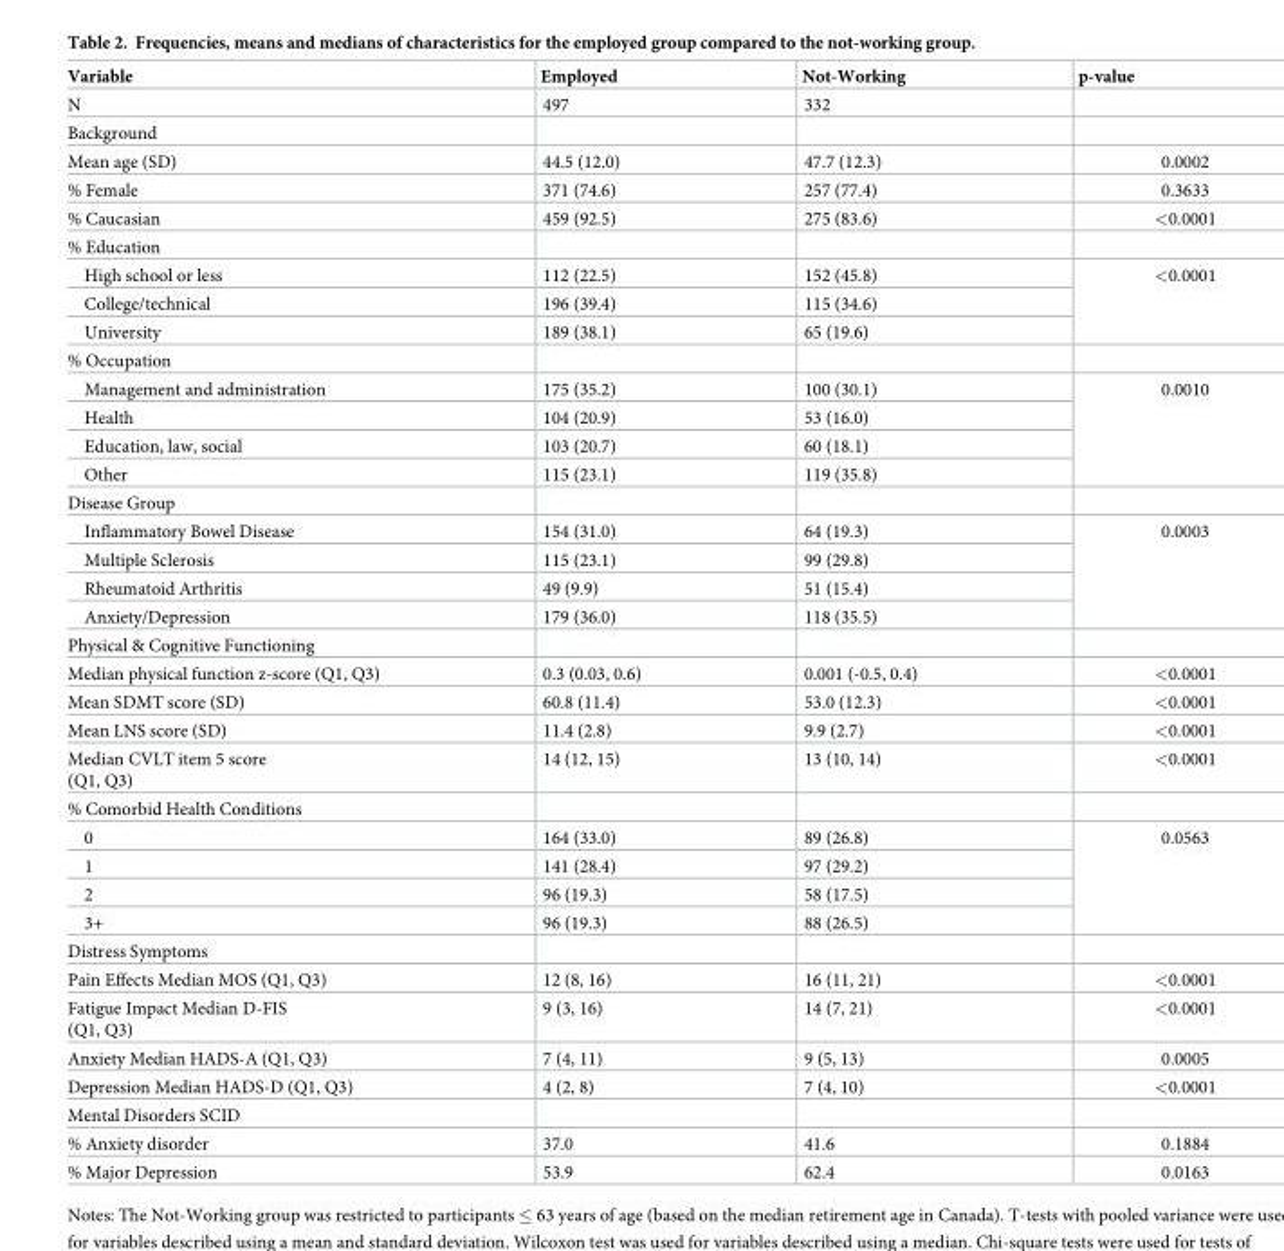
<table><thead><tr><td>Variable</td><td>Employed</td><td>Not-Working</td><td>p-value</td></tr></thead><tbody><tr><td>N</td><td>497</td><td>332</td><td></td></tr><tr><td colspan="4">Background</td></tr><tr><td>Mean age (SD)</td><td>44.5 (12.0)</td><td>47.7 (12.3)</td><td>0.0002</td></tr><tr><td>% Female</td><td>371 (74.6)</td><td>257 (77.4)</td><td>0.3633</td></tr><tr><td>% Caucasian</td><td>459 (92.5)</td><td>275 (83.6)</td><td>&lt;0.0001</td></tr><tr><td colspan="4">% Education</td></tr><tr><td>High school or less</td><td>112 (22.5)</td><td>152 (45.8)</td><td rowspan="3">&lt;0.0001</td></tr><tr><td>College/technical</td><td>196 (39.4)</td><td>115 (34.6)</td></tr><tr><td>University</td><td>189 (38.1)</td><td>65 (19.6)</td></tr><tr><td colspan="4">% Occupation</td></tr><tr><td>Management and administration</td><td>175 (35.2)</td><td>100 (30.1)</td><td rowspan="4">0.0010</td></tr><tr><td>Health</td><td>104 (20.9)</td><td>53 (16.0)</td></tr><tr><td>Education, law, social</td><td>103 (20.7)</td><td>60 (18.1)</td></tr><tr><td>Other</td><td>115 (23.1)</td><td>119 (35.8)</td></tr><tr><td colspan="4">Disease Group</td></tr><tr><td>Inflammatory Bowel Disease</td><td>154 (31.0)</td><td>64 (19.3)</td><td rowspan="4">0.0003</td></tr><tr><td>Multiple Sclerosis</td><td>115 (23.1)</td><td>99 (29.8)</td></tr><tr><td>Rheumatoid Arthritis</td><td>49 (9.9)</td><td>51 (15.4)</td></tr><tr><td>Anxiety/Depression</td><td>179 (36.0)</td><td>118 (35.5)</td></tr><tr><td colspan="4">Physical &amp; Cognitive Functioning</td></tr><tr><td>Median physical function z-score (Q1, Q3)</td><td>0.3 (0.03, 0.6)</td><td>0.001 (-0.5, 0.4)</td><td>&lt;0.0001</td></tr><tr><td>Mean SDMT score (SD)</td><td>60.8 (11.4)</td><td>53.0 (12.3)</td><td>&lt;0.0001</td></tr><tr><td>Mean LNS score (SD)</td><td>11.4 (2.8)</td><td>9.9 (2.7)</td><td>&lt;0.0001</td></tr><tr><td>Median CVLT item 5 score (Q1, Q3)</td><td>14 (12, 15)</td><td>13 (10, 14)</td><td>&lt;0.0001</td></tr><tr><td colspan="4">% Comorbid Health Conditions</td></tr><tr><td>0</td><td>164 (33.0)</td><td>89 (26.8)</td><td rowspan="4">0.0563</td></tr><tr><td>1</td><td>141 (28.4)</td><td>97 (29.2)</td></tr><tr><td>2</td><td>96 (19.3)</td><td>58 (17.5)</td></tr><tr><td>3+</td><td>96 (19.3)</td><td>88 (26.5)</td></tr><tr><td colspan="4">Distress Symptoms</td></tr><tr><td>Pain Effects Median MOS (Q1, Q3)</td><td>12 (8, 16)</td><td>16 (11, 21)</td><td>&lt;0.0001</td></tr><tr><td>Fatigue Impact Median D-FIS (Q1, Q3)</td><td>9 (3, 16)</td><td>14 (7, 21)</td><td>&lt;0.0001</td></tr><tr><td>Anxiety Median HADS-A (Q1, Q3)</td><td>7 (4, 11)</td><td>9 (5, 13)</td><td>0.0005</td></tr><tr><td>Depression Median HADS-D (Q1, Q3)</td><td>4 (2, 8)</td><td>7 (4, 10)</td><td>&lt;0.0001</td></tr><tr><td colspan="4">Mental Disorders SCID</td></tr><tr><td>% Anxiety disorder</td><td>37.0</td><td>41.6</td><td>0.1884</td></tr><tr><td>% Major Depression</td><td>53.9</td><td>62.4</td><td>0.0163</td></tr></tbody></table>